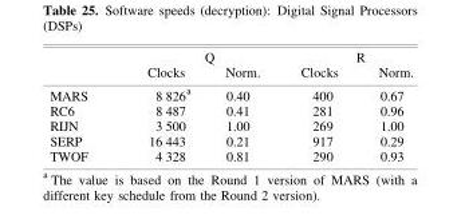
<table><thead><tr><td rowspan="2"></td><td colspan="2">Q</td><td colspan="2">R</td></tr><tr><td>Clocks</td><td>Norm.</td><td>Clocks</td><td>Norm.</td></tr></thead><tbody><tr><td>MARS</td><td>8 826<sup>a</sup></td><td>0.40</td><td>400</td><td>0.67</td></tr><tr><td>RC6</td><td>8 487</td><td>0.41</td><td>281</td><td>0.96</td></tr><tr><td>RIJN</td><td>3 500</td><td>1.00</td><td>269</td><td>1.00</td></tr><tr><td>SERP</td><td>16 443</td><td>0.21</td><td>917</td><td>0.29</td></tr><tr><td>TWOF</td><td>4 328</td><td>0.81</td><td>290</td><td>0.93</td></tr></tbody></table>